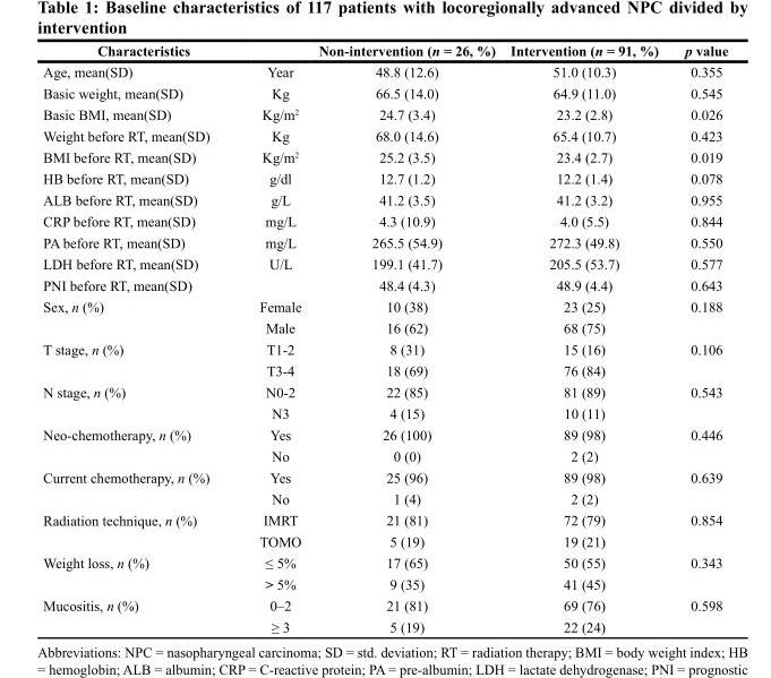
<table><thead><tr><td>Characteristics</td><td></td><td>Non-intervention (n = 26, %)</td><td>Intervention (n = 91, %)</td><td>p value</td></tr></thead><tbody><tr><td>Age, mean(SD)</td><td>Year</td><td>48.8 (12.6)</td><td>51.0 (10.3)</td><td>0.355</td></tr><tr><td>Basic weight, mean(SD)</td><td>Kg</td><td>66.5 (14.0)</td><td>64.9 (11.0)</td><td>0.545</td></tr><tr><td>Basic BMI, mean(SD)</td><td>Kg/m<sup>2</sup></td><td>24.7 (3.4)</td><td>23.2 (2.8)</td><td>0.026</td></tr><tr><td>Weight before RT, mean(SD)</td><td>Kg</td><td>68.0 (14.6)</td><td>65.4 (10.7)</td><td>0.423</td></tr><tr><td>BMI before RT, mean(SD)</td><td>Kg/m<sup>2</sup></td><td>25.2 (3.5)</td><td>23.4 (2.7)</td><td>0.019</td></tr><tr><td>HB before RT, mean(SD)</td><td>g/dl</td><td>12.7 (1.2)</td><td>12.2 (1.4)</td><td>0.078</td></tr><tr><td>ALB before RT, mean(SD)</td><td>g/L</td><td>41.2 (3.5)</td><td>41.2 (3.2)</td><td>0.955</td></tr><tr><td>CRP before RT, mean(SD)</td><td>mg/L</td><td>4.3 (10.9)</td><td>4.0 (5.5)</td><td>0.844</td></tr><tr><td>PA before RT, mean(SD)</td><td>mg/L</td><td>265.5 (54.9)</td><td>272.3 (49.8)</td><td>0.550</td></tr><tr><td>LDH before RT, mean(SD)</td><td>U/L</td><td>199.1 (41.7)</td><td>205.5 (53.7)</td><td>0.577</td></tr><tr><td>PNI before RT, mean(SD)</td><td></td><td>48.4 (4.3)</td><td>48.9 (4.4)</td><td>0.643</td></tr><tr><td rowspan="2">Sex, n (%)</td><td>Female</td><td>10 (38)</td><td>23 (25)</td><td>0.188</td></tr><tr><td>Male</td><td>16 (62)</td><td>68 (75)</td><td></td></tr><tr><td rowspan="2">T stage, n (%)</td><td>T1-2</td><td>8 (31)</td><td>15 (16)</td><td>0.106</td></tr><tr><td>T3-4</td><td>18 (69)</td><td>76 (84)</td><td></td></tr><tr><td rowspan="2">N stage, n (%)</td><td>N0-2</td><td>22 (85)</td><td>81 (89)</td><td>0.543</td></tr><tr><td>N3</td><td>4 (15)</td><td>10 (11)</td><td></td></tr><tr><td rowspan="2">Neo-chemotherapy, n (%)</td><td>Yes</td><td>26 (100)</td><td>89 (98)</td><td>0.446</td></tr><tr><td>No</td><td>0 (0)</td><td>2 (2)</td><td></td></tr><tr><td rowspan="2">Current chemotherapy, n (%)</td><td>Yes</td><td>25 (96)</td><td>89 (98)</td><td>0.639</td></tr><tr><td>No</td><td>1 (4)</td><td>2 (2)</td><td></td></tr><tr><td rowspan="2">Radiation technique, n (%)</td><td>IMRT</td><td>21 (81)</td><td>72 (79)</td><td>0.854</td></tr><tr><td>TOMO</td><td>5 (19)</td><td>19 (21)</td><td></td></tr><tr><td rowspan="2">Weight loss, n (%)</td><td>≤ 5%</td><td>17 (65)</td><td>50 (55)</td><td>0.343</td></tr><tr><td>&gt; 5%</td><td>9 (35)</td><td>41 (45)</td><td></td></tr><tr><td rowspan="2">Mucositis, n (%)</td><td>0–2</td><td>21 (81)</td><td>69 (76)</td><td>0.598</td></tr><tr><td>≥ 3</td><td>5 (19)</td><td>22 (24)</td><td></td></tr></tbody></table>